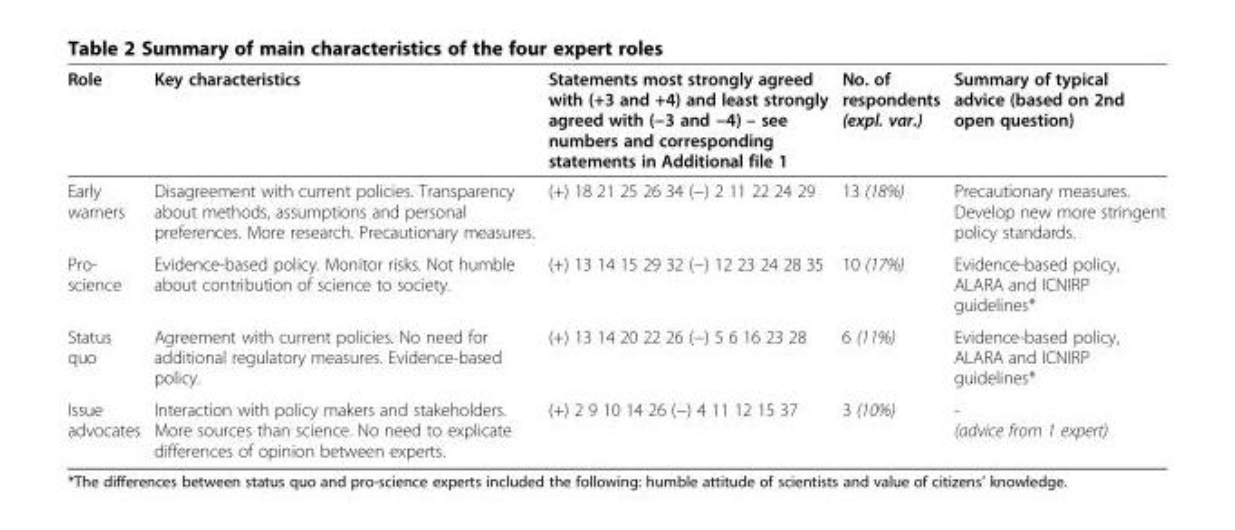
<table><thead><tr><td>Role</td><td>Key characteristics</td><td>Statements most strongly agreed with (+3 and +4) and least strongly agreed with (−3 and −4) – see numbers and corresponding statements in Additional file 1</td><td>No. of respondents (expl. var.)</td><td>Summary of typical advice (based on 2nd open question)</td></tr></thead><tbody><tr><td>Early warners</td><td>Disagreement with current policies. Transparency about methods, assumptions and personal preferences. More research. Precautionary measures.</td><td>(+) 18 21 25 26 34 (−) 2 11 22 24 29</td><td>13 (18%)</td><td>Precautionary measures. Develop new more stringent policy standards.</td></tr><tr><td>Pro- science</td><td>Evidence-based policy. Monitor risks. Not humble about contribution of science to society.</td><td>(+) 13 14 15 29 32 (−) 12 23 24 28 35</td><td>10 (17%)</td><td>Evidence-based policy, ALARA and ICNIRP guidelines*</td></tr><tr><td>Status quo</td><td>Agreement with current policies. No need for additional regulatory measures. Evidence-based policy.</td><td>(+) 13 14 20 22 26 (−) 5 6 16 23 28</td><td>6 (11%)</td><td>Evidence-based policy, ALARA and ICNIRP guidelines*</td></tr><tr><td>Issue advocates</td><td>Interaction with policy makers and stakeholders. More sources than science. No need to explicate differences of opinion between experts.</td><td>(+) 2 9 10 14 26 (−) 4 11 12 15 37</td><td>3 (10%)</td><td>- (advice from 1 expert)</td></tr></tbody></table>